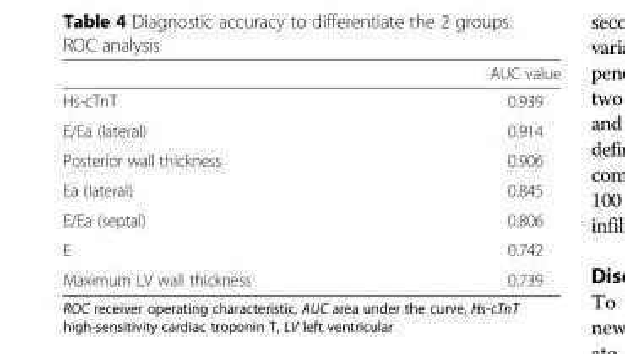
<table><thead><tr><td></td><td>AUC value</td></tr></thead><tbody><tr><td>Hs-cTnT</td><td>0.939</td></tr><tr><td>E/Ea (lateral)</td><td>0.914</td></tr><tr><td>Posterior wall thickness</td><td>0.906</td></tr><tr><td>Ea (lateral)</td><td>0.845</td></tr><tr><td>E/Ea (septal)</td><td>0.806</td></tr><tr><td>E</td><td>0.742</td></tr><tr><td>Maximum LV wall thickness</td><td>0.739</td></tr></tbody></table>